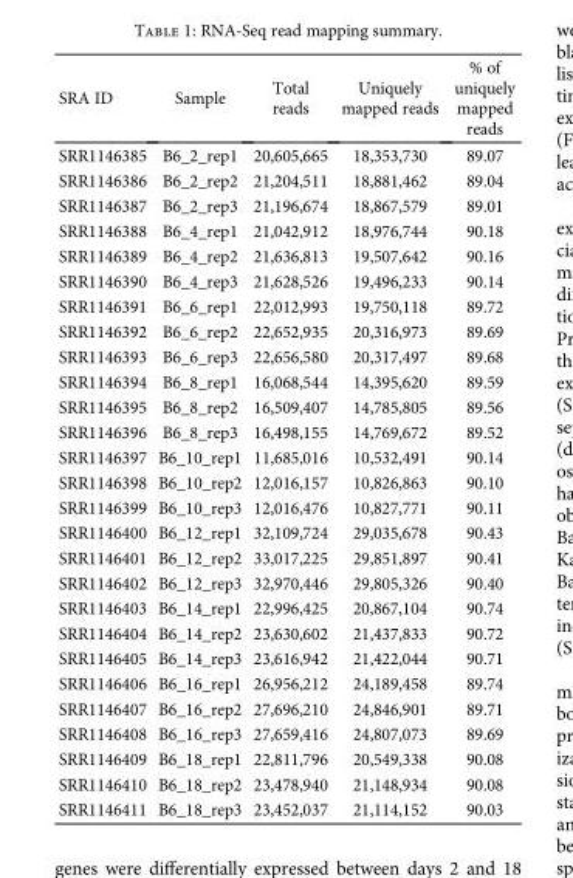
<table><thead><tr><td>SRA ID</td><td>Sample</td><td>Total reads</td><td>Uniquely mapped reads</td><td>% of uniquely mapped reads</td></tr></thead><tbody><tr><td>SRR1146385</td><td>B6_2_rep1</td><td>20,605,665</td><td>18,353,730</td><td>89.07</td></tr><tr><td>SRR1146386</td><td>B6_2_rep2</td><td>21,204,511</td><td>18,881,462</td><td>89.04</td></tr><tr><td>SRR1146387</td><td>B6_2_rep3</td><td>21,196,674</td><td>18,867,579</td><td>89.01</td></tr><tr><td>SRR1146388</td><td>B6_4_rep1</td><td>21,042,912</td><td>18,976,744</td><td>90.18</td></tr><tr><td>SRR1146389</td><td>B6_4_rep2</td><td>21,636,813</td><td>19,507,642</td><td>90.16</td></tr><tr><td>SRR1146390</td><td>B6_4_rep3</td><td>21,628,526</td><td>19,496,233</td><td>90.14</td></tr><tr><td>SRR1146391</td><td>B6_6_rep1</td><td>22,012,993</td><td>19,750,118</td><td>89.72</td></tr><tr><td>SRR1146392</td><td>B6_6_rep2</td><td>22,652,935</td><td>20,316,973</td><td>89.69</td></tr><tr><td>SRR1146393</td><td>B6_6_rep3</td><td>22,656,580</td><td>20,317,497</td><td>89.68</td></tr><tr><td>SRR1146394</td><td>B6_8_rep1</td><td>16,068,544</td><td>14,395,620</td><td>89.59</td></tr><tr><td>SRR1146395</td><td>B6_8_rep2</td><td>16,509,407</td><td>14,785,805</td><td>89.56</td></tr><tr><td>SRR1146396</td><td>B6_8_rep3</td><td>16,498,155</td><td>14,769,672</td><td>89.52</td></tr><tr><td>SRR1146397</td><td>B6_10_rep1</td><td>11,685,016</td><td>10,532,491</td><td>90.14</td></tr><tr><td>SRR1146398</td><td>B6_10_rep2</td><td>12,016,157</td><td>10,826,863</td><td>90.10</td></tr><tr><td>SRR1146399</td><td>B6_10_rep3</td><td>12,016,476</td><td>10,827,771</td><td>90.11</td></tr><tr><td>SRR1146400</td><td>B6_12_rep1</td><td>32,109,724</td><td>29,035,678</td><td>90.43</td></tr><tr><td>SRR1146401</td><td>B6_12_rep2</td><td>33,017,225</td><td>29,851,897</td><td>90.41</td></tr><tr><td>SRR1146402</td><td>B6_12_rep3</td><td>32,970,446</td><td>29,805,326</td><td>90.40</td></tr><tr><td>SRR1146403</td><td>B6_14_rep1</td><td>22,996,425</td><td>20,867,104</td><td>90.74</td></tr><tr><td>SRR1146404</td><td>B6_14_rep2</td><td>23,630,602</td><td>21,437,833</td><td>90.72</td></tr><tr><td>SRR1146405</td><td>B6_14_rep3</td><td>23,616,942</td><td>21,422,044</td><td>90.71</td></tr><tr><td>SRR1146406</td><td>B6_16_rep1</td><td>26,956,212</td><td>24,189,458</td><td>89.74</td></tr><tr><td>SRR1146407</td><td>B6_16_rep2</td><td>27,696,210</td><td>24,846,901</td><td>89.71</td></tr><tr><td>SRR1146408</td><td>B6_16_rep3</td><td>27,659,416</td><td>24,807,073</td><td>89.69</td></tr><tr><td>SRR1146409</td><td>B6_18_rep1</td><td>22,811,796</td><td>20,549,338</td><td>90.08</td></tr><tr><td>SRR1146410</td><td>B6_18_rep2</td><td>23,478,940</td><td>21,148,934</td><td>90.08</td></tr><tr><td>SRR1146411</td><td>B6_18_rep3</td><td>23,452,037</td><td>21,114,152</td><td>90.03</td></tr></tbody></table>